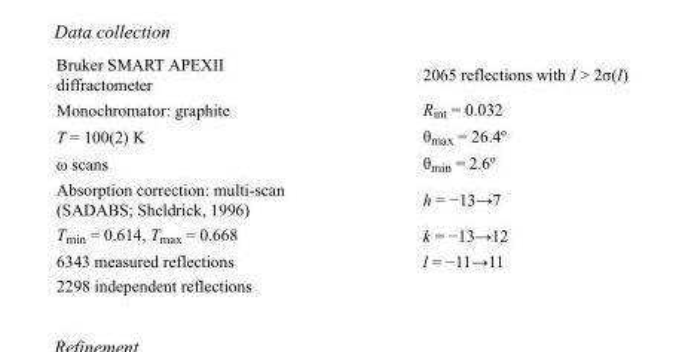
<table><tbody><tr><td>Bruker SMART APEXII diffractometer</td><td>2065 reflections with I &gt; 2σ(I)</td></tr><tr><td>Monochromator: graphite</td><td>R<sub>int</sub> = 0.032</td></tr><tr><td>T = 100(2) K</td><td>θ<sub>max</sub> = 26.4º</td></tr><tr><td>ω scans</td><td>θ<sub>min</sub> = 2.6º</td></tr><tr><td>Absorption correction: multi-scan (SADABS; Sheldrick, 1996)</td><td>h = −13→7</td></tr><tr><td>T<sub>min</sub> = 0.614, T<sub>max</sub> = 0.668</td><td>k = −13→12</td></tr><tr><td>6343 measured reflections</td><td>l = −11→11</td></tr><tr><td>2298 independent reflections</td><td></td></tr></tbody></table>